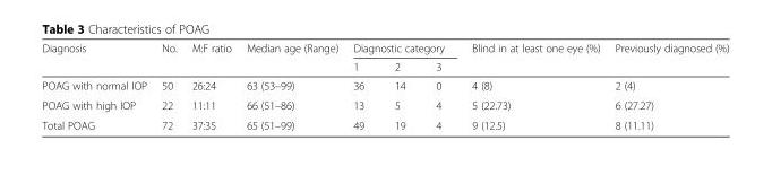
<table><thead><tr><td rowspan="2">Diagnosis</td><td rowspan="2">No.</td><td rowspan="2">M:F ratio</td><td rowspan="2">Median age (Range)</td><td colspan="3">Diagnostic category</td><td rowspan="2">Blind in at least one eye (%)</td><td rowspan="2">Previously diagnosed (%)</td></tr><tr><td>1</td><td>2</td><td>3</td></tr></thead><tbody><tr><td>POAG with normal IOP</td><td>50</td><td>26:24</td><td>63 (53–99)</td><td>36</td><td>14</td><td>0</td><td>4 (8)</td><td>2 (4)</td></tr><tr><td>POAG with high IOP</td><td>22</td><td>11:11</td><td>66 (51–86)</td><td>13</td><td>5</td><td>4</td><td>5 (22.73)</td><td>6 (27.27)</td></tr><tr><td>Total POAG</td><td>72</td><td>37:35</td><td>65 (51–99)</td><td>49</td><td>19</td><td>4</td><td>9 (12.5)</td><td>8 (11.11)</td></tr></tbody></table>